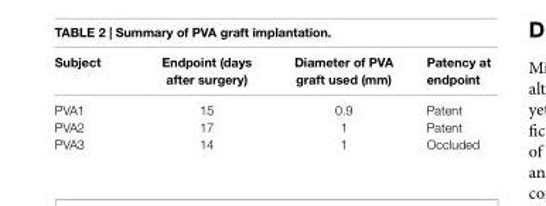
<table><thead><tr><td>subject</td><td>endpoint (days after surgery)</td><td>Diameter of PVa graft used (mm)</td><td>Patency at endpoint</td></tr></thead><tbody><tr><td>PVA1</td><td>15</td><td>0.9</td><td>Patent</td></tr><tr><td>PVA2</td><td>17</td><td>1</td><td>Patent</td></tr><tr><td>PVA3</td><td>14</td><td>1</td><td>Occluded</td></tr></tbody></table>